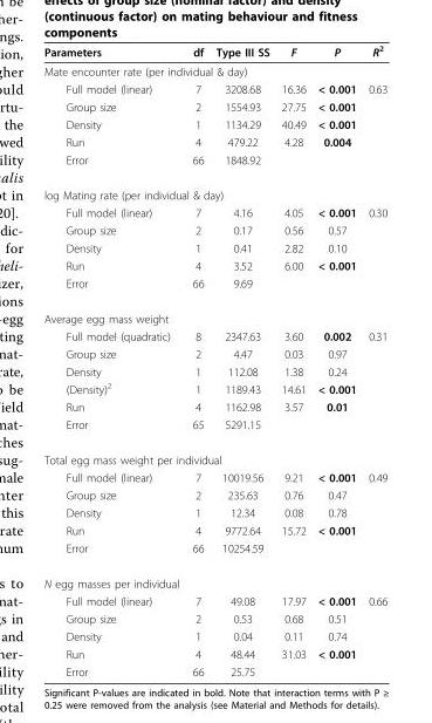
<table><thead><tr><td>Parameters</td><td>df</td><td>Type III SS</td><td>F</td><td>P</td><td>R<sup>2</sup></td></tr></thead><tbody><tr><td colspan="6">Mate encounter rate (per individual &amp; day)</td></tr><tr><td>Full model (linear)</td><td>7</td><td>3208.68</td><td>16.36</td><td>&lt; 0.001</td><td>0.63</td></tr><tr><td>Group size</td><td>2</td><td>1554.93</td><td>27.75</td><td>&lt; 0.001</td><td></td></tr><tr><td>Density</td><td>1</td><td>1134.29</td><td>40.49</td><td>&lt; 0.001</td><td></td></tr><tr><td>Run</td><td>4</td><td>479.22</td><td>4.28</td><td>0.004</td><td></td></tr><tr><td>Error</td><td>66</td><td>1848.92</td><td></td><td></td><td></td></tr><tr><td colspan="6">log Mating rate (per individual &amp; day)</td></tr><tr><td>Full model (linear)</td><td>7</td><td>4.16</td><td>4.05</td><td>&lt; 0.001</td><td>0.30</td></tr><tr><td>Group size</td><td>2</td><td>0.17</td><td>0.56</td><td>0.57</td><td></td></tr><tr><td>Density</td><td>1</td><td>0.41</td><td>2.82</td><td>0.10</td><td></td></tr><tr><td>Run</td><td>4</td><td>3.52</td><td>6.00</td><td>&lt; 0.001</td><td></td></tr><tr><td>Error</td><td>66</td><td>9.69</td><td></td><td></td><td></td></tr><tr><td colspan="6">Average egg mass weight</td></tr><tr><td>Full model (quadratic)</td><td>8</td><td>2347.63</td><td>3.60</td><td>0.002</td><td>0.31</td></tr><tr><td>Group size</td><td>2</td><td>4.47</td><td>0.03</td><td>0.97</td><td></td></tr><tr><td>Density</td><td>1</td><td>112.08</td><td>1.38</td><td>0.24</td><td></td></tr><tr><td>(Density)<sup>2</sup></td><td>1</td><td>1189.43</td><td>14.61</td><td>&lt; 0.001</td><td></td></tr><tr><td>Run</td><td>4</td><td>1162.98</td><td>3.57</td><td>0.01</td><td></td></tr><tr><td>Error</td><td>65</td><td>5291.15</td><td></td><td></td><td></td></tr><tr><td colspan="6">Total egg mass weight per individual</td></tr><tr><td>Full model (linear)</td><td>7</td><td>10019.56</td><td>9.21</td><td>&lt; 0.001</td><td>0.49</td></tr><tr><td>Group size</td><td>2</td><td>235.63</td><td>0.76</td><td>0.47</td><td></td></tr><tr><td>Density</td><td>1</td><td>12.34</td><td>0.08</td><td>0.78</td><td></td></tr><tr><td>Run</td><td>4</td><td>9772.64</td><td>15.72</td><td>&lt; 0.001</td><td></td></tr><tr><td>Error</td><td>66</td><td>10254.59</td><td></td><td></td><td></td></tr><tr><td colspan="6">N egg masses per individual</td></tr><tr><td>Full model (linear)</td><td>7</td><td>49.08</td><td>17.97</td><td>&lt; 0.001</td><td>0.66</td></tr><tr><td>Group size</td><td>2</td><td>0.53</td><td>0.68</td><td>0.51</td><td></td></tr><tr><td>Density</td><td>1</td><td>0.04</td><td>0.11</td><td>0.74</td><td></td></tr><tr><td>Run</td><td>4</td><td>48.44</td><td>31.03</td><td>&lt; 0.001</td><td></td></tr><tr><td>Error</td><td>66</td><td>25.75</td><td></td><td></td><td></td></tr></tbody></table>